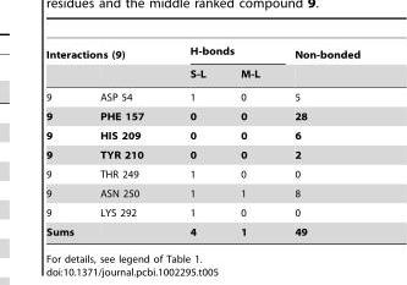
<table><thead><tr><td colspan="2">Interactions (9)</td><td colspan="2">H-bonds</td><td rowspan="2">Non-bonded</td></tr><tr><td></td><td></td><td>S-L</td><td>M-L</td></tr></thead><tbody><tr><td>9</td><td>ASP 54</td><td>1</td><td>0</td><td>5</td></tr><tr><td>9</td><td>PHE 157</td><td>0</td><td>0</td><td>28</td></tr><tr><td>9</td><td>HIS 209</td><td>0</td><td>0</td><td>6</td></tr><tr><td>9</td><td>TYR 210</td><td>0</td><td>0</td><td>2</td></tr><tr><td>9</td><td>THR 249</td><td>1</td><td>0</td><td>0</td></tr><tr><td>9</td><td>ASN 250</td><td>1</td><td>1</td><td>8</td></tr><tr><td>9</td><td>LYS 292</td><td>1</td><td>0</td><td>0</td></tr><tr><td>Sums</td><td></td><td>4</td><td>1</td><td>49</td></tr></tbody></table>